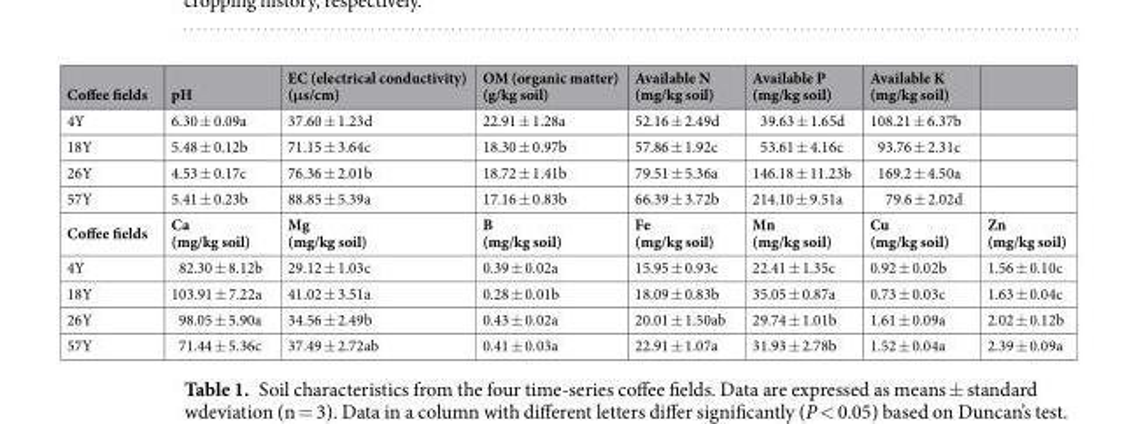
<table><thead><tr><td>Coffee fields</td><td>pH</td><td>EC (electrical conductivity) (μs/cm)</td><td>OM (organic matter) (g/kg soil)</td><td>Available N (mg/kg soil)</td><td>Available P (mg/kg soil)</td><td>Available K (mg/kg soil)</td><td></td></tr></thead><tbody><tr><td>4Y</td><td>6.30 ± 0.09a</td><td>37.60 ± 1.23d</td><td>22.91 ± 1.28a</td><td>52.16 ± 2.49d</td><td>39.63 ± 1.65d</td><td>108.21 ± 6.37b</td><td></td></tr><tr><td>18Y</td><td>5.48 ± 0.12b</td><td>71.15 ± 3.64c</td><td>18.30 ± 0.97b</td><td>57.86 ± 1.92c</td><td>53.61 ± 4.16c</td><td>93.76 ± 2.31c</td><td></td></tr><tr><td>26Y</td><td>4.53 ± 0.17c</td><td>76.36 ± 2.01b</td><td>18.72 ± 1.41b</td><td>79.51 ± 5.36a</td><td>146.18 ± 11.23b</td><td>169.2 ± 4.50a</td><td></td></tr><tr><td>57Y</td><td>5.41 ± 0.23b</td><td>88.85 ± 5.39a</td><td>17.16 ± 0.83b</td><td>66.39 ± 3.72b</td><td>214.10 ± 9.51a</td><td>79.6 ± 2.02d</td><td></td></tr><tr><td>Coffee fields</td><td>Ca (mg/kg soil)</td><td>Mg (mg/kg soil)</td><td>B (mg/kg soil)</td><td>Fe (mg/kg soil)</td><td>Mn (mg/kg soil)</td><td>Cu (mg/kg soil)</td><td>Zn (mg/kg soil)</td></tr><tr><td>4Y</td><td>82.30 ± 8.12b</td><td>29.12 ± 1.03c</td><td>0.39 ± 0.02a</td><td>15.95 ± 0.93c</td><td>22.41 ± 1.35c</td><td>0.92 ± 0.02b</td><td>1.56 ± 0.10c</td></tr><tr><td>18Y</td><td>103.91 ± 7.22a</td><td>41.02 ± 3.51a</td><td>0.28 ± 0.01b</td><td>18.09 ± 0.83b</td><td>35.05 ± 0.87a</td><td>0.73 ± 0.03c</td><td>1.63 ± 0.04c</td></tr><tr><td>26Y</td><td>98.05 ± 5.90a</td><td>34.56 ± 2.49b</td><td>0.43 ± 0.02a</td><td>20.01 ± 1.50ab</td><td>29.74 ± 1.01b</td><td>1.61 ± 0.09a</td><td>2.02 ± 0.12b</td></tr><tr><td>57Y</td><td>71.44 ± 5.36c</td><td>37.49 ± 2.72ab</td><td>0.41 ± 0.03a</td><td>22.91 ± 1.07a</td><td>31.93 ± 2.78b</td><td>1.52 ± 0.04a</td><td>2.39 ± 0.09a</td></tr></tbody></table>